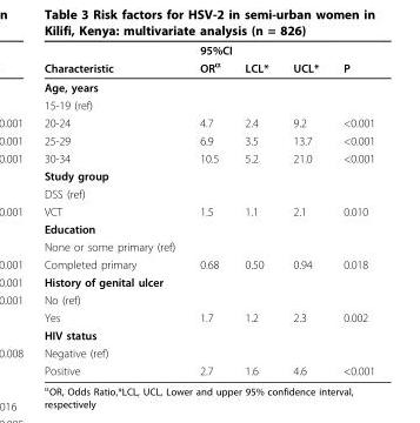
<table><thead><tr><td rowspan="2">Characteristic</td><td colspan="3">95%CI</td><td rowspan="2">P</td></tr><tr><td>OR<sup>α</sup></td><td>LCL*</td><td>UCL*</td></tr></thead><tbody><tr><td colspan="5">Age, years</td></tr><tr><td colspan="5">15-19 (ref)</td></tr><tr><td>20-24</td><td>4.7</td><td>2.4</td><td>9.2</td><td>&lt;0.001</td></tr><tr><td>25-29</td><td>6.9</td><td>3.5</td><td>13.7</td><td>&lt;0.001</td></tr><tr><td>30-34</td><td>10.5</td><td>5.2</td><td>21.0</td><td>&lt;0.001</td></tr><tr><td colspan="5">Study group</td></tr><tr><td colspan="5">DSS (ref)</td></tr><tr><td>VCT</td><td>1.5</td><td>1.1</td><td>2.1</td><td>0.010</td></tr><tr><td colspan="5">Education</td></tr><tr><td colspan="5">None or some primary (ref)</td></tr><tr><td>Completed primary</td><td>0.68</td><td>0.50</td><td>0.94</td><td>0.018</td></tr><tr><td colspan="5">History of genital ulcer</td></tr><tr><td colspan="5">No (ref)</td></tr><tr><td>Yes</td><td>1.7</td><td>1.2</td><td>2.3</td><td>0.002</td></tr><tr><td colspan="5">HIV status</td></tr><tr><td colspan="5">Negative (ref)</td></tr><tr><td>Positive</td><td>2.7</td><td>1.6</td><td>4.6</td><td>&lt;0.001</td></tr></tbody></table>